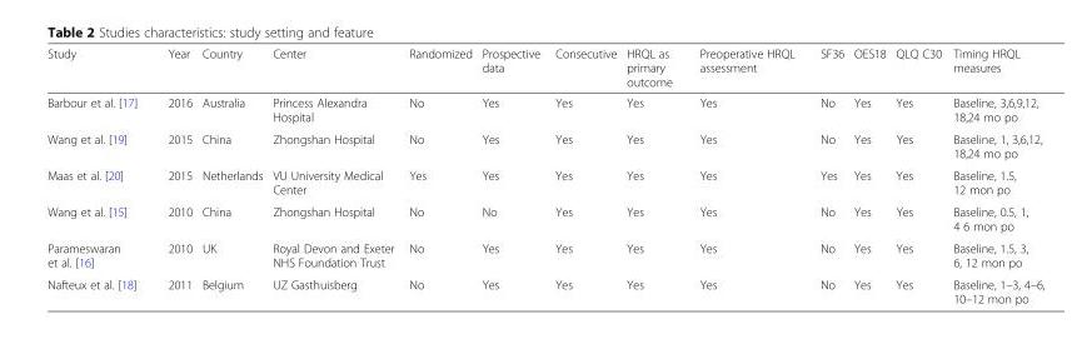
<table><thead><tr><td>Study</td><td>Year</td><td>Country</td><td>Center</td><td>Randomized</td><td>Prospective data</td><td>Consecutive</td><td>HRQL as primary outcome</td><td>Preoperative HRQL assessment</td><td>SF36</td><td>OES18</td><td>QLQ C30</td><td>Timing HRQL measures</td></tr></thead><tbody><tr><td>Barbour et al. [17]</td><td>2016</td><td>Australia</td><td>Princess Alexandra Hospital</td><td>No</td><td>Yes</td><td>Yes</td><td>Yes</td><td>Yes</td><td>No</td><td>Yes</td><td>Yes</td><td>Baseline, 3,6,9,12, 18,24 mo po</td></tr><tr><td>Wang et al. [19]</td><td>2015</td><td>China</td><td>Zhongshan Hospital</td><td>No</td><td>Yes</td><td>Yes</td><td>Yes</td><td>Yes</td><td>No</td><td>Yes</td><td>Yes</td><td>Baseline, 1, 3,6,12, 18,24 mo po</td></tr><tr><td>Maas et al. [20]</td><td>2015</td><td>Netherlands</td><td>VU University Medical Center</td><td>Yes</td><td>Yes</td><td>Yes</td><td>Yes</td><td>Yes</td><td>Yes</td><td>Yes</td><td>Yes</td><td>Baseline, 1.5, 12 mon po</td></tr><tr><td>Wang et al. [15]</td><td>2010</td><td>China</td><td>Zhongshan Hospital</td><td>No</td><td>No</td><td>Yes</td><td>Yes</td><td>Yes</td><td>No</td><td>Yes</td><td>Yes</td><td>Baseline, 0.5, 1, 4 6 mon po</td></tr><tr><td>Parameswaran et al. [16]</td><td>2010</td><td>UK</td><td>Royal Devon and Exeter NHS Foundation Trust</td><td>No</td><td>Yes</td><td>Yes</td><td>Yes</td><td>Yes</td><td>No</td><td>Yes</td><td>Yes</td><td>Baseline, 1.5, 3, 6, 12 mon po</td></tr><tr><td>Nafteux et al. [18]</td><td>2011</td><td>Belgium</td><td>UZ Gasthuisberg</td><td>No</td><td>Yes</td><td>Yes</td><td>Yes</td><td>Yes</td><td>No</td><td>Yes</td><td>Yes</td><td>Baseline, 1–3, 4–6, 10–12 mon po</td></tr></tbody></table>